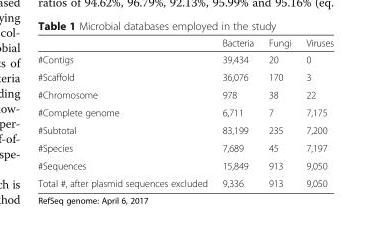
<table><thead><tr><td></td><td>Bacteria</td><td>Fungi</td><td>Viruses</td></tr></thead><tbody><tr><td>#Contigs</td><td>39,434</td><td>20</td><td>0</td></tr><tr><td>#Scaffold</td><td>36,076</td><td>170</td><td>3</td></tr><tr><td>#Chromosome</td><td>978</td><td>38</td><td>22</td></tr><tr><td>#Complete genome</td><td>6,711</td><td>7</td><td>7,175</td></tr><tr><td>#Subtotal</td><td>83,199</td><td>235</td><td>7,200</td></tr><tr><td>#Species</td><td>7,689</td><td>45</td><td>7,197</td></tr><tr><td>#Sequences</td><td>15,849</td><td>913</td><td>9,050</td></tr><tr><td>Total #, after plasmid sequences excluded</td><td>9,336</td><td>913</td><td>9,050</td></tr></tbody></table>